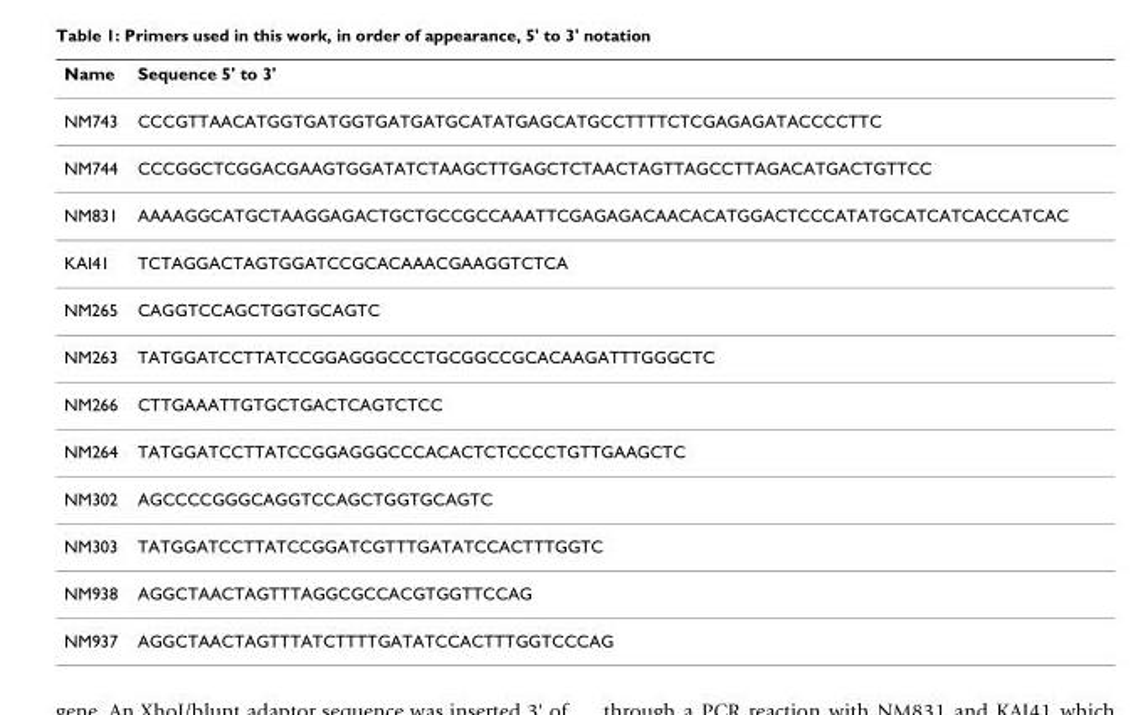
<table><thead><tr><td>Name</td><td>Sequence 5&#x27; to 3&#x27;</td></tr></thead><tbody><tr><td>NM743</td><td>CCCGTTAACATGGTGATGGTGATGATGCATATGAGCATGCCTTTTCTCGAGAGATACCCCTTC</td></tr><tr><td>NM744</td><td>CCCGGCTCGGACGAAGTGGATATCTAAGCTTGAGCTCTAACTAGTTAGCCTTAGACATGACTGTTCC</td></tr><tr><td>NM831</td><td>AAAAGGCATGCTAAGGAGACTGCTGCCGCCAAATTCGAGAGACAACACATGGACTCCCATATGCATCATCACCATCAC</td></tr><tr><td>KAI41</td><td>TCTAGGACTAGTGGATCCGCACAAACGAAGGTCTCA</td></tr><tr><td>NM265</td><td>CAGGTCCAGCTGGTGCAGTC</td></tr><tr><td>NM263</td><td>TATGGATCCTTATCCGGAGGGCCCTGCGGCCGCACAAGATTTGGGCTC</td></tr><tr><td>NM266</td><td>CTTGAAATTGTGCTGACTCAGTCTCC</td></tr><tr><td>NM264</td><td>TATGGATCCTTATCCGGAGGGCCCACACTCTCCCCTGTTGAAGCTC</td></tr><tr><td>NM302</td><td>AGCCCCGGGCAGGTCCAGCTGGTGCAGTC</td></tr><tr><td>NM303</td><td>TATGGATCCTTATCCGGATCGTTTGATATCCACTTTGGTC</td></tr><tr><td>NM938</td><td>AGGCTAACTAGTTTAGGCGCCACGTGGTTCCAG</td></tr><tr><td>NM937</td><td>AGGCTAACTAGTTTATCTTTTGATATCCACTTTGGTCCCAG</td></tr></tbody></table>